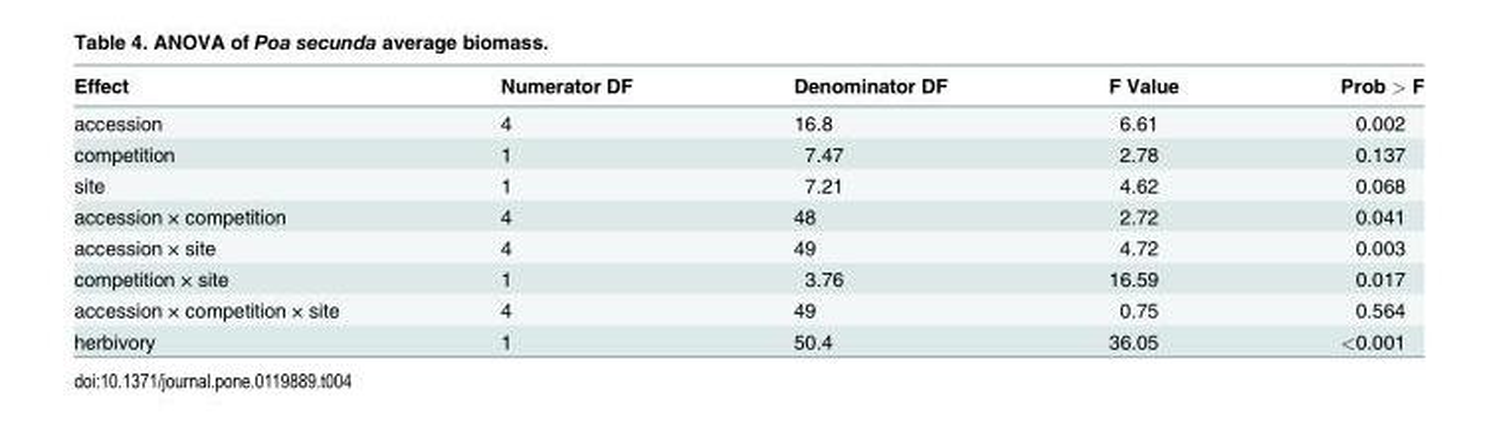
<table><thead><tr><td>Effect</td><td>Numerator DF</td><td>Denominator DF</td><td>F Value</td><td>Prob &gt; F</td></tr></thead><tbody><tr><td>accession</td><td>4</td><td>16.8</td><td>6.61</td><td>0.002</td></tr><tr><td>competition</td><td>1</td><td>7.47</td><td>2.78</td><td>0.137</td></tr><tr><td>site</td><td>1</td><td>7.21</td><td>4.62</td><td>0.068</td></tr><tr><td>accession × competition</td><td>4</td><td>48</td><td>2.72</td><td>0.041</td></tr><tr><td>accession × site</td><td>4</td><td>49</td><td>4.72</td><td>0.003</td></tr><tr><td>competition × site</td><td>1</td><td>3.76</td><td>16.59</td><td>0.017</td></tr><tr><td>accession × competition × site</td><td>4</td><td>49</td><td>0.75</td><td>0.564</td></tr><tr><td>herbivory</td><td>1</td><td>50.4</td><td>36.05</td><td>&lt;0.001</td></tr></tbody></table>